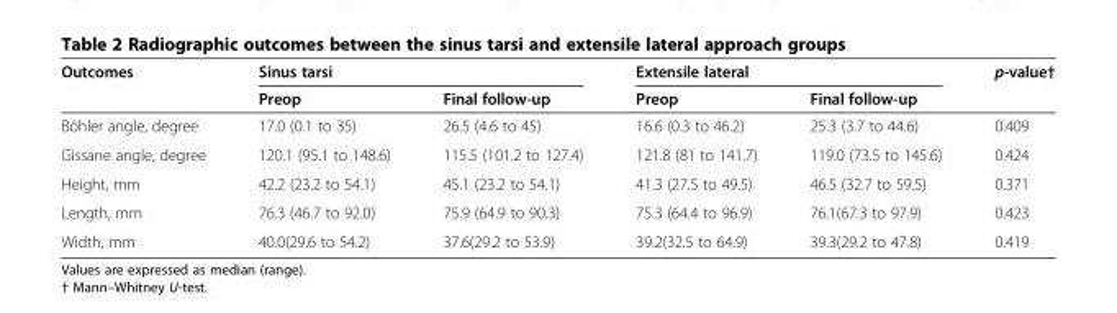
<table><thead><tr><td rowspan="2">Outcomes</td><td colspan="2">Sinus tarsi</td><td colspan="2">Extensile lateral</td><td rowspan="2">p-value†</td></tr><tr><td>Preop</td><td>Final follow-up</td><td>Preop</td><td>Final follow-up</td></tr></thead><tbody><tr><td>Böhler angle, degree</td><td>17.0 (0.1 to 35)</td><td>26.5 (4.6 to 45)</td><td>16.6 (0.3 to 46.2)</td><td>25.3 (3.7 to 44.6)</td><td>0.409</td></tr><tr><td>Gissane angle, degree</td><td>120.1 (95.1 to 148.6)</td><td>115.5 (101.2 to 127.4)</td><td>121.8 (81 to 141.7)</td><td>119.0 (73.5 to 145.6)</td><td>0.424</td></tr><tr><td>Height, mm</td><td>42.2 (23.2 to 54.1)</td><td>45.1 (23.2 to 54.1)</td><td>41.3 (27.5 to 49.5)</td><td>46.5 (32.7 to 59.5)</td><td>0.371</td></tr><tr><td>Length, mm</td><td>76.3 (46.7 to 92.0)</td><td>75.9 (64.9 to 90.3)</td><td>75.3 (64.4 to 96.9)</td><td>76.1(67.3 to 97.9)</td><td>0.423</td></tr><tr><td>Width, mm</td><td>40.0(29.6 to 54.2)</td><td>37.6(29.2 to 53.9)</td><td>39.2(32.5 to 64.9)</td><td>39.3(29.2 to 47.8)</td><td>0.419</td></tr></tbody></table>